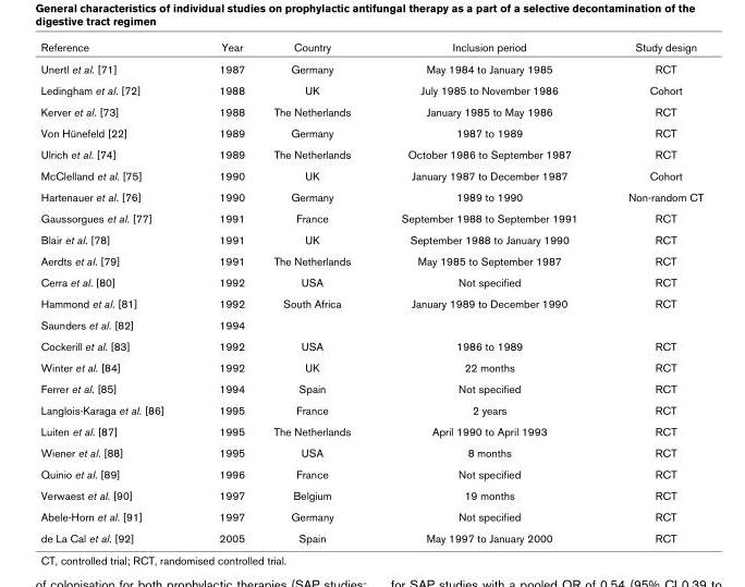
<table><thead><tr><td>Reference</td><td>Year</td><td>Country</td><td>Inclusion period</td><td>Study design</td></tr></thead><tbody><tr><td>Unertl et al. [71]</td><td>1987</td><td>Germany</td><td>May 1984 to January 1985</td><td>RCT</td></tr><tr><td>Ledingham et al. [72]</td><td>1988</td><td>UK</td><td>July 1985 to November 1986</td><td>Cohort</td></tr><tr><td>Kerver et al. [73]</td><td>1988</td><td>The Netherlands</td><td>January 1985 to May 1986</td><td>RCT</td></tr><tr><td>Von Hünefeld [22]</td><td>1989</td><td>Germany</td><td>1987 to 1989</td><td>RCT</td></tr><tr><td>Ulrich et al. [74]</td><td>1989</td><td>The Netherlands</td><td>October 1986 to September 1987</td><td>RCT</td></tr><tr><td>McClelland et al. [75]</td><td>1990</td><td>UK</td><td>January 1987 to December 1987</td><td>Cohort</td></tr><tr><td>Hartenauer et al. [76]</td><td>1990</td><td>Germany</td><td>1989 to 1990</td><td>Non-random CT</td></tr><tr><td>Gaussorgues et al. [77]</td><td>1991</td><td>France</td><td>September 1988 to September 1991</td><td>RCT</td></tr><tr><td>Blair et al. [78]</td><td>1991</td><td>UK</td><td>September 1988 to January 1990</td><td>RCT</td></tr><tr><td>Aerdts et al. [79]</td><td>1991</td><td>The Netherlands</td><td>May 1985 to September 1987</td><td>RCT</td></tr><tr><td>Cerra et al. [80]</td><td>1992</td><td>USA</td><td>Not specified</td><td>RCT</td></tr><tr><td>Hammond et al. [81]</td><td>1992</td><td>South Africa</td><td>January 1989 to December 1990</td><td>RCT</td></tr><tr><td>Saunders et al. [82]</td><td>1994</td><td></td><td></td><td></td></tr><tr><td>Cockerill et al. [83]</td><td>1992</td><td>USA</td><td>1986 to 1989</td><td>RCT</td></tr><tr><td>Winter et al. [84]</td><td>1992</td><td>UK</td><td>22 months</td><td>RCT</td></tr><tr><td>Ferrer et al. [85]</td><td>1994</td><td>Spain</td><td>Not specified</td><td>RCT</td></tr><tr><td>Langlois-Karaga et al. [86]</td><td>1995</td><td>France</td><td>2 years</td><td>RCT</td></tr><tr><td>Luiten et al. [87]</td><td>1995</td><td>The Netherlands</td><td>April 1990 to April 1993</td><td>RCT</td></tr><tr><td>Wiener et al. [88]</td><td>1995</td><td>USA</td><td>8 months</td><td>RCT</td></tr><tr><td>Quinio et al. [89]</td><td>1996</td><td>France</td><td>Not specified</td><td>RCT</td></tr><tr><td>Verwaest et al. [90]</td><td>1997</td><td>Belgium</td><td>19 months</td><td>RCT</td></tr><tr><td>Abele-Horn et al. [91]</td><td>1997</td><td>Germany</td><td>Not specified</td><td>RCT</td></tr><tr><td>de La Cal et al. [92]</td><td>2005</td><td>Spain</td><td>May 1997 to January 2000</td><td>RCT</td></tr></tbody></table>